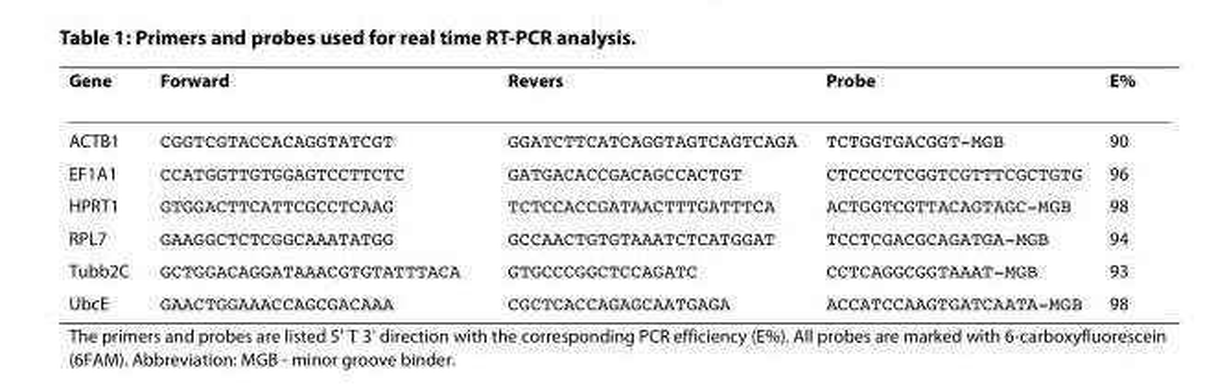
<table><thead><tr><td>Gene</td><td>Forward</td><td>Revers</td><td>Probe</td><td>E%</td></tr></thead><tbody><tr><td>ACTB1</td><td>CGGTCGTACCACAGGTATCGT</td><td>GGATCTTCATCAGGTAGTCAGTCAGA</td><td>TCTGGTGACGGT-MGB</td><td>90</td></tr><tr><td>EF1A1</td><td>CCATGGTTGTGGAGTCCTTCTC</td><td>GATGACACCGACAGCCACTGT</td><td>CTCCCCTCGGTCGTTTCGCTGTG</td><td>96</td></tr><tr><td>HPRT1</td><td>GTGGACTTCATTCGCCTCAAG</td><td>TCTCCACCGATAACTTTGATTTCA</td><td>ACTGGTCGTTACAGTAGC-MGB</td><td>98</td></tr><tr><td>RPL7</td><td>GAAGGCTCTCGGCAAATATGG</td><td>GCCAACTGTGTAAATCTCATGGAT</td><td>TCCTCGACGCAGATGA-MGB</td><td>94</td></tr><tr><td>Tubb2C</td><td>GCTGGACAGGATAAACGTGTATTTACA</td><td>GTGCCCGGCTCCAGATC</td><td>CCTCAGGCGGTAAAT-MGB</td><td>93</td></tr><tr><td>UbcE</td><td>GAACTGGAAACCAGCGACAAA</td><td>CGCTCACCAGAGCAATGAGA</td><td>ACCATCCAAGTGATCAATA-MGB</td><td>98</td></tr></tbody></table>